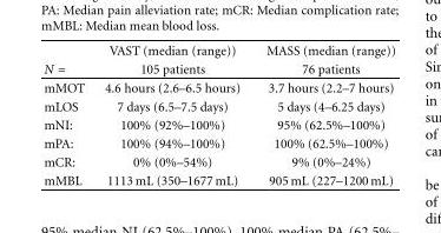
<table><thead><tr><td rowspan="2">N =</td><td rowspan="2">VAST (median (range)) 105 patients</td><td rowspan="2">MASS (median (range)) 76 patients</td></tr><tr></tr></thead><tbody><tr><td>mMOT</td><td>4.6 hours (2.6–6.5 hours)</td><td>3.7 hours (2.2–7 hours)</td></tr><tr><td>mLOS</td><td>7 days (6.5–7.5 days)</td><td>5 days (4–6.25 days)</td></tr><tr><td>mNI:</td><td>100% (92%–100%)</td><td>95% (62.5%–100%)</td></tr><tr><td>mPA:</td><td>100% (94%–100%)</td><td>100% (62.5%–100%)</td></tr><tr><td>mCR:</td><td>0% (0%–54%)</td><td>9% (0%–24%)</td></tr><tr><td>mMBL</td><td>1113 mL (350–1677 mL)</td><td>905 mL (227–1200mL)</td></tr></tbody></table>